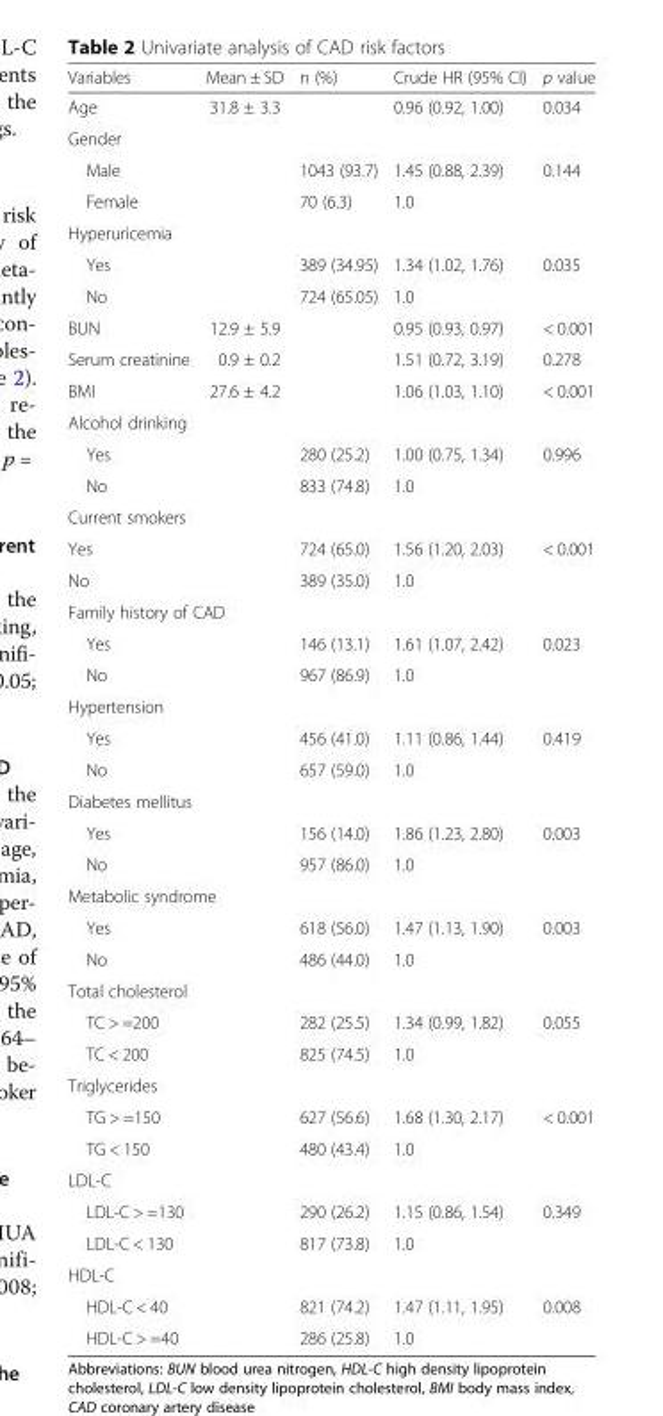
<table><thead><tr><td>Variables</td><td>Mean ± SD</td><td>n (%)</td><td>Crude HR (95% CI)</td><td>p value</td></tr></thead><tbody><tr><td>Age</td><td>31.8 ± 3.3</td><td></td><td>0.96 (0.92, 1.00)</td><td>0.034</td></tr><tr><td colspan="5">Gender</td></tr><tr><td>Male</td><td></td><td>1043 (93.7)</td><td>1.45 (0.88, 2.39)</td><td>0.144</td></tr><tr><td>Female</td><td></td><td>70 (6.3)</td><td>1.0</td><td></td></tr><tr><td colspan="5">Hyperuricemia</td></tr><tr><td>Yes</td><td></td><td>389 (34.95)</td><td>1.34 (1.02, 1.76)</td><td>0.035</td></tr><tr><td>No</td><td></td><td>724 (65.05)</td><td>1.0</td><td></td></tr><tr><td>BUN</td><td>12.9 ± 5.9</td><td></td><td>0.95 (0.93, 0.97)</td><td>&lt; 0.001</td></tr><tr><td>Serum creatinine</td><td>0.9 ± 0.2</td><td></td><td>1.51 (0.72, 3.19)</td><td>0.278</td></tr><tr><td>BMI</td><td>27.6 ± 4.2</td><td></td><td>1.06 (1.03, 1.10)</td><td>&lt; 0.001</td></tr><tr><td colspan="5">Alcohol drinking</td></tr><tr><td>Yes</td><td></td><td>280 (25.2)</td><td>1.00 (0.75, 1.34)</td><td>0.996</td></tr><tr><td>No</td><td></td><td>833 (74.8)</td><td>1.0</td><td></td></tr><tr><td colspan="5">Current smokers</td></tr><tr><td>Yes</td><td></td><td>724 (65.0)</td><td>1.56 (1.20, 2.03)</td><td>&lt; 0.001</td></tr><tr><td>No</td><td></td><td>389 (35.0)</td><td>1.0</td><td></td></tr><tr><td colspan="5">Family history of CAD</td></tr><tr><td>Yes</td><td></td><td>146 (13.1)</td><td>1.61 (1.07, 2.42)</td><td>0.023</td></tr><tr><td>No</td><td></td><td>967 (86.9)</td><td>1.0</td><td></td></tr><tr><td colspan="5">Hypertension</td></tr><tr><td>Yes</td><td></td><td>456 (41.0)</td><td>1.11 (0.86, 1.44)</td><td>0.419</td></tr><tr><td>No</td><td></td><td>657 (59.0)</td><td>1.0</td><td></td></tr><tr><td colspan="5">Diabetes mellitus</td></tr><tr><td>Yes</td><td></td><td>156 (14.0)</td><td>1.86 (1.23, 2.80)</td><td>0.003</td></tr><tr><td>No</td><td></td><td>957 (86.0)</td><td>1.0</td><td></td></tr><tr><td colspan="5">Metabolic syndrome</td></tr><tr><td>Yes</td><td></td><td>618 (56.0)</td><td>1.47 (1.13, 1.90)</td><td>0.003</td></tr><tr><td>No</td><td></td><td>486 (44.0)</td><td>1.0</td><td></td></tr><tr><td colspan="5">Total cholesterol</td></tr><tr><td>TC &gt; =200</td><td></td><td>282 (25.5)</td><td>1.34 (0.99, 1.82)</td><td>0.055</td></tr><tr><td>TC &lt; 200</td><td></td><td>825 (74.5)</td><td>1.0</td><td></td></tr><tr><td colspan="5">Triglycerides</td></tr><tr><td>TG &gt; =150</td><td></td><td>627 (56.6)</td><td>1.68 (1.30, 2.17)</td><td>&lt; 0.001</td></tr><tr><td>TG &lt; 150</td><td></td><td>480 (43.4)</td><td>1.0</td><td></td></tr><tr><td colspan="5">LDL-C</td></tr><tr><td>LDL-C &gt; =130</td><td></td><td>290 (26.2)</td><td>1.15 (0.86, 1.54)</td><td>0.349</td></tr><tr><td>LDL-C &lt; 130</td><td></td><td>817 (73.8)</td><td>1.0</td><td></td></tr><tr><td colspan="5">HDL-C</td></tr><tr><td>HDL-C &lt; 40</td><td></td><td>821 (74.2)</td><td>1.47 (1.11, 1.95)</td><td>0.008</td></tr><tr><td>HDL-C &gt; =40</td><td></td><td>286 (25.8)</td><td>1.0</td><td></td></tr></tbody></table>